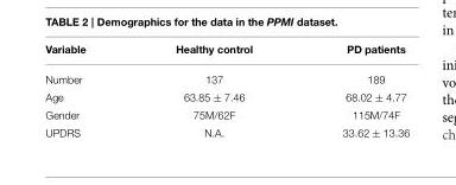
<table><thead><tr><td>Variable</td><td>Healthy control</td><td>PD patients</td></tr></thead><tbody><tr><td>Number</td><td>137</td><td>189</td></tr><tr><td>Age</td><td>63.85 ± 7.46</td><td>68.02 ± 4.77</td></tr><tr><td>Gender</td><td>75M/62F</td><td>115M/74F</td></tr><tr><td>UPDRS</td><td>N.A.</td><td>33.62 ± 13.36</td></tr></tbody></table>